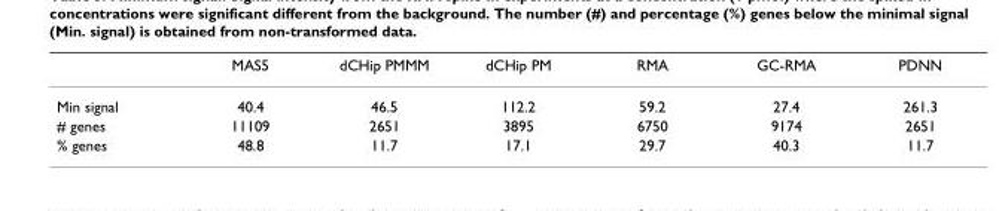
<table><thead><tr><td></td><td>MAS5</td><td>dCHip PMMM</td><td>dCHip PM</td><td>RMA</td><td>GC-RMA</td><td>PDNN</td></tr></thead><tbody><tr><td>Min signal</td><td>40.4</td><td>46.5</td><td>112.2</td><td>59.2</td><td>27.4</td><td>261.3</td></tr><tr><td># genes</td><td>11109</td><td>2651</td><td>3895</td><td>6750</td><td>9174</td><td>2651</td></tr><tr><td>% genes</td><td>48.8</td><td>11.7</td><td>17.1</td><td>29.7</td><td>40.3</td><td>11.7</td></tr></tbody></table>